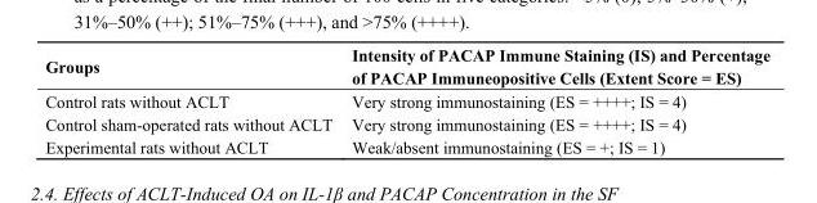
<table><thead><tr><td>Groups</td><td>Intensity of PACAP Immune Staining (IS) and Percentage of PACAP Immuneopositive Cells (Extent Score = ES)</td></tr></thead><tbody><tr><td>Control rats without ACLT</td><td>Very strong immunostaining (ES = ++++; IS = 4)</td></tr><tr><td>Control sham-operated rats without ACLT</td><td>Very strong immunostaining (ES = ++++; IS = 4)</td></tr><tr><td>Experimental rats without ACLT</td><td>Weak/absent immunostaining (ES = +; IS = 1)</td></tr></tbody></table>